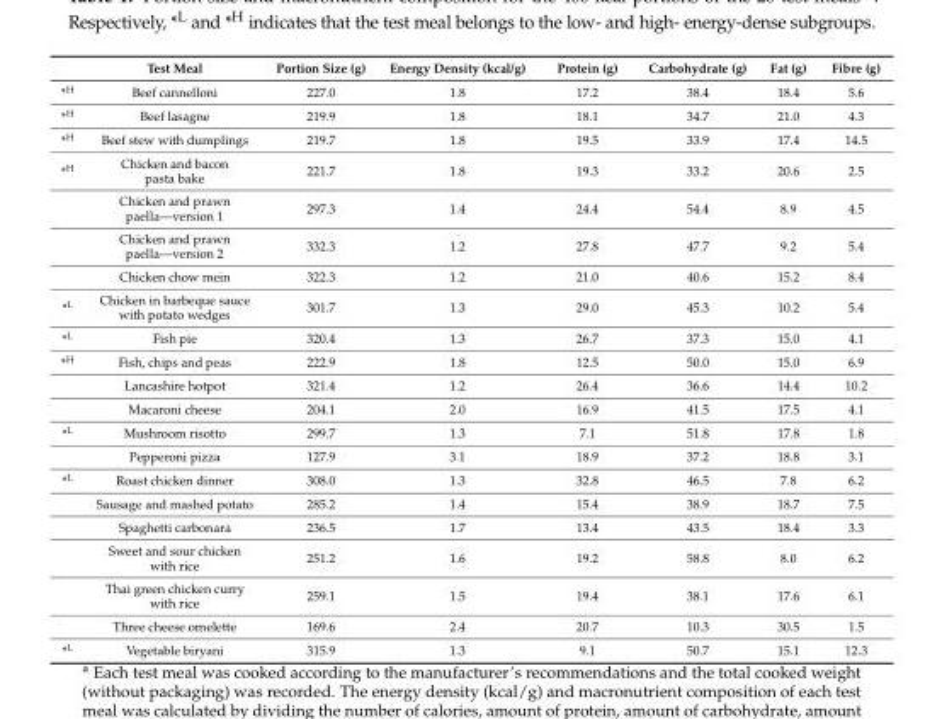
<table><thead><tr><td></td><td>Test Meal</td><td>Portion Size (g)</td><td>Energy Density (kcal/g)</td><td>Protein (g)</td><td>Carbohydrate (g)</td><td>Fat (g)</td><td>Fibre (g)</td></tr></thead><tbody><tr><td>*<sup>H</sup></td><td>Beef cannelloni</td><td>227.0</td><td>1.8</td><td>17.2</td><td>38.4</td><td>18.4</td><td>5.6</td></tr><tr><td>*<sup>H</sup></td><td>Beef lasagne</td><td>219.9</td><td>1.8</td><td>18.1</td><td>34.7</td><td>21.0</td><td>4.3</td></tr><tr><td>*<sup>H</sup></td><td>Beef stew with dumplings</td><td>219.7</td><td>1.8</td><td>19.5</td><td>33.9</td><td>17.4</td><td>14.5</td></tr><tr><td rowspan="4">*<sup>H</sup></td><td>Chicken and bacon pasta bake</td><td>221.7</td><td>1.8</td><td>19.3</td><td>33.2</td><td>20.6</td><td>2.5</td></tr><tr><td>Chicken and prawn paella—version 1</td><td>297.3</td><td>1.4</td><td>24.4</td><td>54.4</td><td>8.9</td><td>4.5</td></tr><tr><td>Chicken and prawn paella—version 2</td><td>332.3</td><td>1.2</td><td>27.8</td><td>47.7</td><td>9.2</td><td>5.4</td></tr><tr><td>Chicken chow mein</td><td>322.3</td><td>1.2</td><td>21.0</td><td>40.6</td><td>15.2</td><td>8.4</td></tr><tr><td>*<sup>L</sup></td><td>Chicken in barbeque sauce with potato wedges</td><td>301.7</td><td>1.3</td><td>29.0</td><td>45.3</td><td>10.2</td><td>5.4</td></tr><tr><td>*<sup>L</sup></td><td>Fish pie</td><td>320.4</td><td>1.3</td><td>26.7</td><td>37.3</td><td>15.0</td><td>4.1</td></tr><tr><td rowspan="3">*<sup>H</sup></td><td>Fish, chips and peas</td><td>222.9</td><td>1.8</td><td>12.5</td><td>50.0</td><td>15.0</td><td>6.9</td></tr><tr><td>Lancashire hotpot</td><td>321.4</td><td>1.2</td><td>26.4</td><td>36.6</td><td>14.4</td><td>10.2</td></tr><tr><td>Macaroni cheese</td><td>204.1</td><td>2.0</td><td>16.9</td><td>41.5</td><td>17.5</td><td>4.1</td></tr><tr><td rowspan="2">*<sup>L</sup></td><td>Mushroom risotto</td><td>299.7</td><td>1.3</td><td>7.1</td><td>51.8</td><td>17.8</td><td>1.8</td></tr><tr><td>Pepperoni pizza</td><td>127.9</td><td>3.1</td><td>18.9</td><td>37.2</td><td>18.8</td><td>3.1</td></tr><tr><td rowspan="6">*<sup>L</sup></td><td>Roast chicken dinner</td><td>308.0</td><td>1.3</td><td>32.8</td><td>46.5</td><td>7.8</td><td>6.2</td></tr><tr><td>Sausage and mashed potato</td><td>285.2</td><td>1.4</td><td>15.4</td><td>38.9</td><td>18.7</td><td>7.5</td></tr><tr><td>Spaghetti carbonara</td><td>236.5</td><td>1.7</td><td>13.4</td><td>43.5</td><td>18.4</td><td>3.3</td></tr><tr><td>Sweet and sour chicken with rice</td><td>251.2</td><td>1.6</td><td>19.2</td><td>58.8</td><td>8.0</td><td>6.2</td></tr><tr><td>Thai green chicken curry with rice</td><td>259.1</td><td>1.5</td><td>19.4</td><td>38.1</td><td>17.6</td><td>6.1</td></tr><tr><td>Three cheese omelette</td><td>169.6</td><td>2.4</td><td>20.7</td><td>10.3</td><td>30.5</td><td>1.5</td></tr><tr><td>*<sup>L</sup></td><td>Vegetable biryani</td><td>315.9</td><td>1.3</td><td>9.1</td><td>50.7</td><td>15.1</td><td>12.3</td></tr></tbody></table>